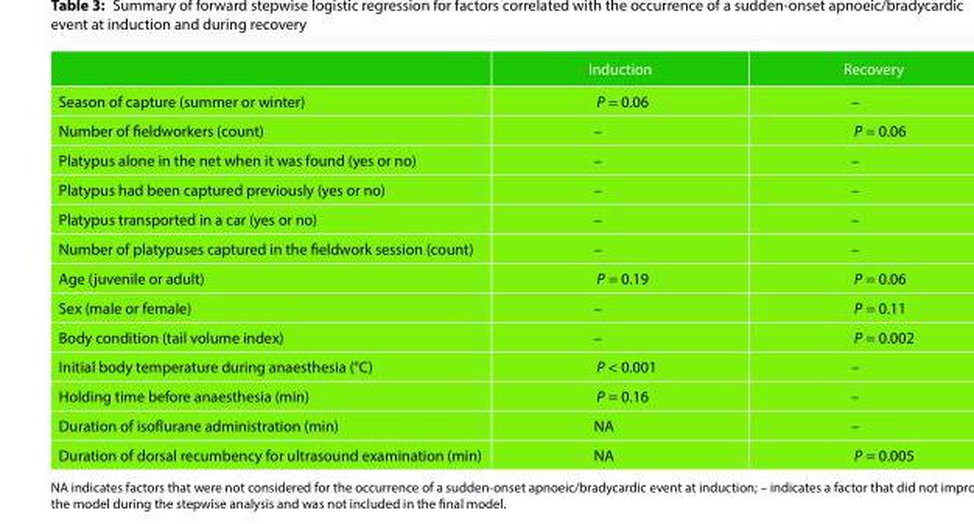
<table><thead><tr><td></td><td>Induction</td><td>Recovery</td></tr></thead><tbody><tr><td>Season of capture (summer or winter)</td><td>P = 0.06</td><td>–</td></tr><tr><td>Number of fieldworkers (count)</td><td>–</td><td>P = 0.06</td></tr><tr><td>Platypus alone in the net when it was found (yes or no)</td><td>–</td><td>–</td></tr><tr><td>Platypus had been captured previously (yes or no)</td><td>–</td><td>–</td></tr><tr><td>Platypus transported in a car (yes or no)</td><td>–</td><td>–</td></tr><tr><td>Number of platypuses captured in the fieldwork session (count)</td><td>–</td><td>–</td></tr><tr><td>Age (juvenile or adult)</td><td>P = 0.19</td><td>P = 0.06</td></tr><tr><td>Sex (male or female)</td><td>–</td><td>P = 0.11</td></tr><tr><td>Body condition (tail volume index)</td><td>–</td><td>P = 0.002</td></tr><tr><td>Initial body temperature during anaesthesia (°C)</td><td>P &lt; 0.001</td><td>–</td></tr><tr><td>Holding time before anaesthesia (min)</td><td>P = 0.16</td><td>–</td></tr><tr><td>Duration of isoflurane administration (min)</td><td>NA</td><td>–</td></tr><tr><td>Duration of dorsal recumbency for ultrasound examination (min)</td><td>NA</td><td>P = 0.005</td></tr></tbody></table>